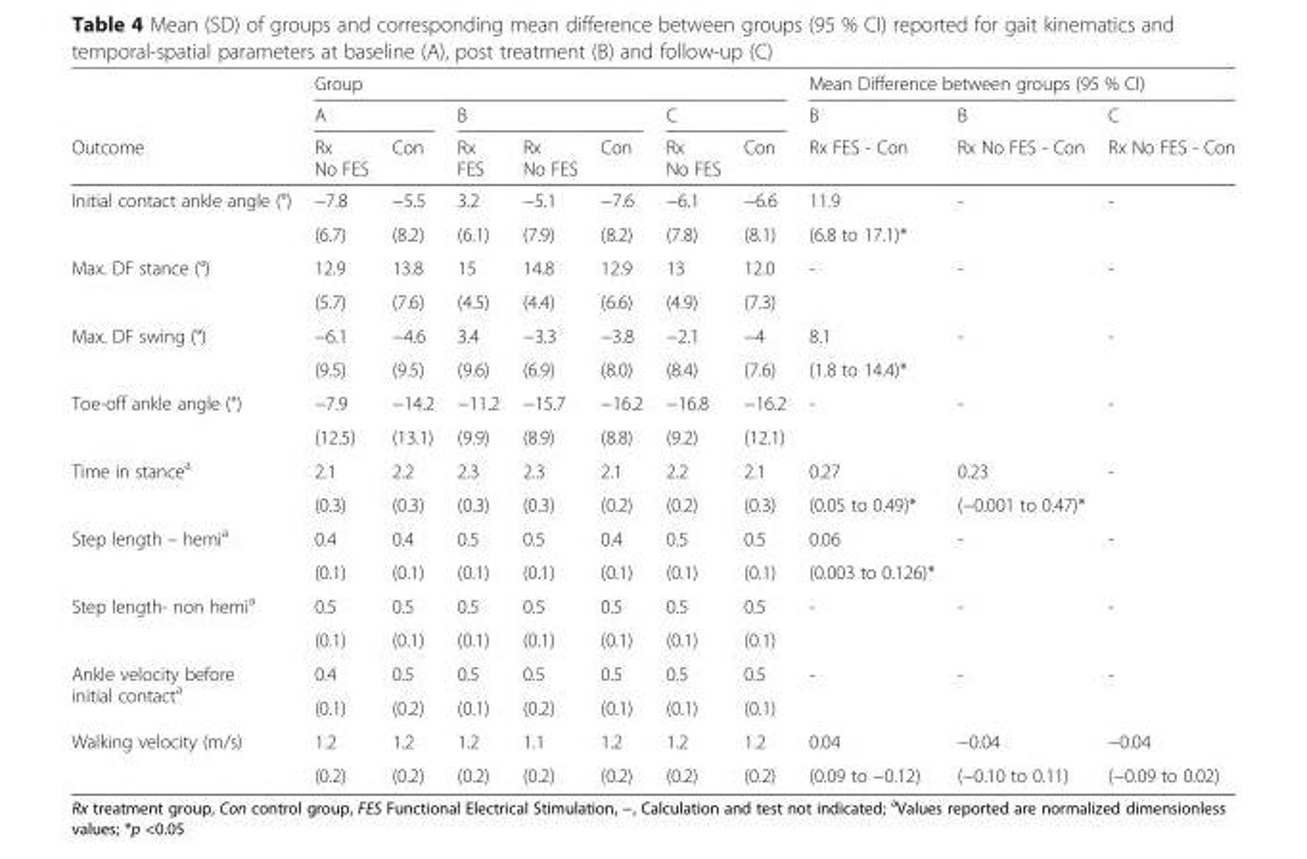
<table><thead><tr><td rowspan="3">Outcome</td><td colspan="7">Group</td><td colspan="3">Mean Difference between groups (95 % CI)</td></tr><tr><td colspan="2">A</td><td colspan="3">B</td><td colspan="2">C</td><td rowspan="2">B Rx FES - Con</td><td rowspan="2">B Rx No FES - Con</td><td rowspan="2">C Rx No FES - Con</td></tr><tr><td>Rx</td><td>Con</td><td>Rx</td><td>Rx</td><td>Con</td><td>Rx</td><td>Con</td></tr></thead><tbody><tr><td></td><td>No FES</td><td></td><td>FES</td><td>No FES</td><td></td><td>No FES</td><td></td><td></td><td></td><td></td></tr><tr><td rowspan="2">Initial contact ankle angle (°)</td><td>−7.8</td><td>−5.5</td><td>3.2</td><td>−5.1</td><td>−7.6</td><td>−6.1</td><td>−6.6</td><td>11.9</td><td rowspan="2">-</td><td rowspan="2">-</td></tr><tr><td>(6.7)</td><td>(8.2)</td><td>(6.1)</td><td>(7.9)</td><td>(8.2)</td><td>(7.8)</td><td>(8.1)</td><td>(6.8 to 17.1)*</td></tr><tr><td rowspan="2">Max. DF stance (°)</td><td>12.9</td><td>13.8</td><td>15</td><td>14.8</td><td>12.9</td><td>13</td><td>12.0</td><td rowspan="2">-</td><td rowspan="2">-</td><td rowspan="2">-</td></tr><tr><td>(5.7)</td><td>(7.6)</td><td>(4.5)</td><td>(4.4)</td><td>(6.6)</td><td>(4.9)</td><td>(7.3)</td></tr><tr><td rowspan="2">Max. DF swing (°)</td><td>−6.1</td><td>−4.6</td><td>3.4</td><td>−3.3</td><td>−3.8</td><td>−2.1</td><td>−4</td><td>8.1</td><td rowspan="2">-</td><td rowspan="2">-</td></tr><tr><td>(9.5)</td><td>(9.5)</td><td>(9.6)</td><td>(6.9)</td><td>(8.0)</td><td>(8.4)</td><td>(7.6)</td><td>(1.8 to 14.4)*</td></tr><tr><td rowspan="2">Toe-off ankle angle (°)</td><td>−7.9</td><td>−14.2</td><td>−11.2</td><td>−15.7</td><td>−16.2</td><td>−16.8</td><td>−16.2</td><td rowspan="2">-</td><td rowspan="2">-</td><td rowspan="2">-</td></tr><tr><td>(12.5)</td><td>(13.1)</td><td>(9.9)</td><td>(8.9)</td><td>(8.8)</td><td>(9.2)</td><td>(12.1)</td></tr><tr><td rowspan="2">Time in stance<sup>a</sup></td><td>2.1</td><td>2.2</td><td>2.3</td><td>2.3</td><td>2.1</td><td>2.2</td><td>2.1</td><td>0.27</td><td>0.23</td><td rowspan="2">-</td></tr><tr><td>(0.3)</td><td>(0.3)</td><td>(0.3)</td><td>(0.3)</td><td>(0.2)</td><td>(0.2)</td><td>(0.3)</td><td>(0.05 to 0.49)*</td><td>(−0.001 to 0.47)*</td></tr><tr><td rowspan="2">Step length – hemi<sup>a</sup></td><td>0.4</td><td>0.4</td><td>0.5</td><td>0.5</td><td>0.4</td><td>0.5</td><td>0.5</td><td>0.06</td><td rowspan="2">-</td><td rowspan="2">-</td></tr><tr><td>(0.1)</td><td>(0.1)</td><td>(0.1)</td><td>(0.1)</td><td>(0.1)</td><td>(0.1)</td><td>(0.1)</td><td>(0.003 to 0.126)*</td></tr><tr><td rowspan="2">Step length- non hemi<sup>a</sup></td><td>0.5</td><td>0.5</td><td>0.5</td><td>0.5</td><td>0.5</td><td>0.5</td><td>0.5</td><td rowspan="2">-</td><td rowspan="2">-</td><td rowspan="2">-</td></tr><tr><td>(0.1)</td><td>(0.1)</td><td>(0.1)</td><td>(0.1)</td><td>(0.1)</td><td>(0.1)</td><td>(0.1)</td></tr><tr><td rowspan="2">Ankle velocity before initial contact<sup>a</sup></td><td>0.4</td><td>0.5</td><td>0.5</td><td>0.5</td><td>0.5</td><td>0.5</td><td>0.5</td><td rowspan="2">-</td><td rowspan="2">-</td><td rowspan="2">-</td></tr><tr><td>(0.1)</td><td>(0.2)</td><td>(0.1)</td><td>(0.2)</td><td>(0.1)</td><td>(0.1)</td><td>(0.1)</td></tr><tr><td rowspan="2">Walking velocity (m/s)</td><td>1.2</td><td>1.2</td><td>1.2</td><td>1.1</td><td>1.2</td><td>1.2</td><td>1.2</td><td>0.04</td><td>−0.04</td><td>−0.04</td></tr><tr><td>(0.2)</td><td>(0.2)</td><td>(0.2)</td><td>(0.2)</td><td>(0.2)</td><td>(0.2)</td><td>(0.2)</td><td>(0.09 to −0.12)</td><td>(−0.10 to 0.11)</td><td>(−0.09 to 0.02)</td></tr></tbody></table>